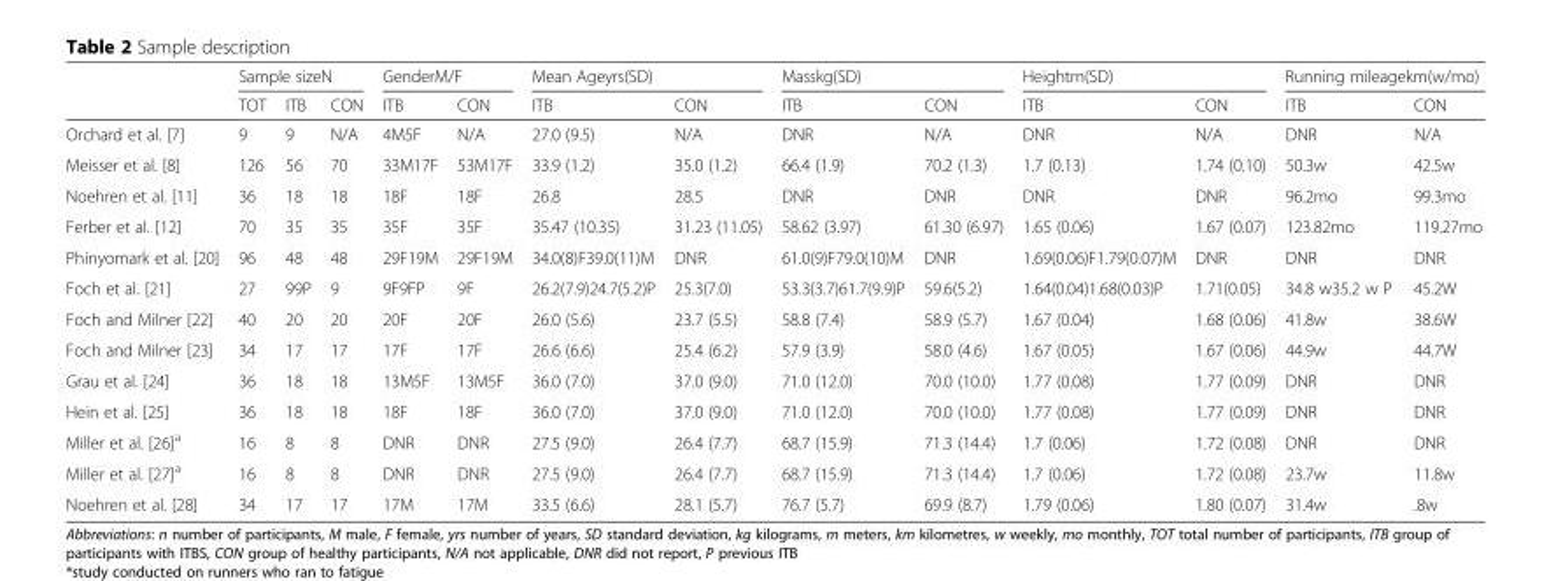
<table><thead><tr><td rowspan="2"></td><td colspan="3">Sample sizeN</td><td colspan="2">GenderM/F</td><td colspan="2">Mean Ageyrs(SD)</td><td colspan="2">Masskg(SD)</td><td colspan="2">Heightm(SD)</td><td colspan="2">Running mileagekm(w/mo)</td></tr><tr><td>TOT</td><td>ITB</td><td>CON</td><td>ITB</td><td>CON</td><td>ITB</td><td>CON</td><td>ITB</td><td>CON</td><td>ITB</td><td>CON</td><td>ITB</td><td>CON</td></tr></thead><tbody><tr><td>Orchard et al. [7]</td><td>9</td><td>9</td><td>N/A</td><td>4M5F</td><td>N/A</td><td>27.0 (9.5)</td><td>N/A</td><td>DNR</td><td>N/A</td><td>DNR</td><td>N/A</td><td>DNR</td><td>N/A</td></tr><tr><td>Meisser et al. [8]</td><td>126</td><td>56</td><td>70</td><td>33M17F</td><td>53M17F</td><td>33.9 (1.2)</td><td>35.0 (1.2)</td><td>66.4 (1.9)</td><td>70.2 (1.3)</td><td>1.7 (0.13)</td><td>1.74 (0.10)</td><td>50.3w</td><td>42.5w</td></tr><tr><td>Noehren et al. [11]</td><td>36</td><td>18</td><td>18</td><td>18F</td><td>18F</td><td>26.8</td><td>28.5</td><td>DNR</td><td>DNR</td><td>DNR</td><td>DNR</td><td>96.2mo</td><td>99.3mo</td></tr><tr><td>Ferber et al. [12]</td><td>70</td><td>35</td><td>35</td><td>35F</td><td>35F</td><td>35.47 (10.35)</td><td>31.23 (11.05)</td><td>58.62 (3.97)</td><td>61.30 (6.97)</td><td>1.65 (0.06)</td><td>1.67 (0.07)</td><td>123.82mo</td><td>119.27mo</td></tr><tr><td>Phinyomark et al. [20]</td><td>96</td><td>48</td><td>48</td><td>29F19M</td><td>29F19M</td><td>34.0(8)F39.0(11)M</td><td>DNR</td><td>61.0(9)F79.0(10)M</td><td>DNR</td><td>1.69(0.06)F1.79(0.07)M</td><td>DNR</td><td>DNR</td><td>DNR</td></tr><tr><td>Foch et al. [21]</td><td>27</td><td>99P</td><td>9</td><td>9F9FP</td><td>9F</td><td>26.2(7.9)24.7(5.2)P</td><td>25.3(7.0)</td><td>53.3(3.7)61.7(9.9)P</td><td>59.6(5.2)</td><td>1.64(0.04)1.68(0.03)P</td><td>1.71(0.05)</td><td>34.8 w35.2 w P</td><td>45.2W</td></tr><tr><td>Foch and Milner [22]</td><td>40</td><td>20</td><td>20</td><td>20F</td><td>20F</td><td>26.0 (5.6)</td><td>23.7 (5.5)</td><td>58.8 (7.4)</td><td>58.9 (5.7)</td><td>1.67 (0.04)</td><td>1.68 (0.06)</td><td>41.8w</td><td>38.6W</td></tr><tr><td>Foch and Milner [23]</td><td>34</td><td>17</td><td>17</td><td>17F</td><td>17F</td><td>26.6 (6.6)</td><td>25.4 (6.2)</td><td>57.9 (3.9)</td><td>58.0 (4.6)</td><td>1.67 (0.05)</td><td>1.67 (0.06)</td><td>44.9w</td><td>44.7W</td></tr><tr><td>Grau et al. [24]</td><td>36</td><td>18</td><td>18</td><td>13M5F</td><td>13M5F</td><td>36.0 (7.0)</td><td>37.0 (9.0)</td><td>71.0 (12.0)</td><td>70.0 (10.0)</td><td>1.77 (0.08)</td><td>1.77 (0.09)</td><td>DNR</td><td>DNR</td></tr><tr><td>Hein et al. [25]</td><td>36</td><td>18</td><td>18</td><td>18F</td><td>18F</td><td>36.0 (7.0)</td><td>37.0 (9.0)</td><td>71.0 (12.0)</td><td>70.0 (10.0)</td><td>1.77 (0.08)</td><td>1.77 (0.09)</td><td>DNR</td><td>DNR</td></tr><tr><td>Miller et al. [26]<sup>a</sup></td><td>16</td><td>8</td><td>8</td><td>DNR</td><td>DNR</td><td>27.5 (9.0)</td><td>26.4 (7.7)</td><td>68.7 (15.9)</td><td>71.3 (14.4)</td><td>1.7 (0.06)</td><td>1.72 (0.08)</td><td>DNR</td><td>DNR</td></tr><tr><td>Miller et al. [27]<sup>a</sup></td><td>16</td><td>8</td><td>8</td><td>DNR</td><td>DNR</td><td>27.5 (9.0)</td><td>26.4 (7.7)</td><td>68.7 (15.9)</td><td>71.3 (14.4)</td><td>1.7 (0.06)</td><td>1.72 (0.08)</td><td>23.7w</td><td>11.8w</td></tr><tr><td>Noehren et al. [28]</td><td>34</td><td>17</td><td>17</td><td>17M</td><td>17M</td><td>33.5 (6.6)</td><td>28.1 (5.7)</td><td>76.7 (5.7)</td><td>69.9 (8.7)</td><td>1.79 (0.06)</td><td>1.80 (0.07)</td><td>31.4w</td><td>.8w</td></tr></tbody></table>